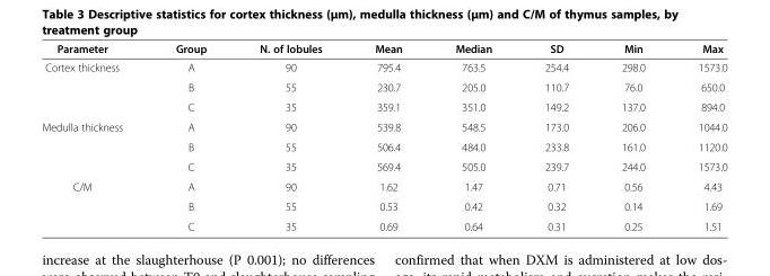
<table><thead><tr><td>Parameter</td><td>Group</td><td>N. of lobules</td><td>Mean</td><td>Median</td><td>SD</td><td>Min</td><td>Max</td></tr></thead><tbody><tr><td rowspan="3">Cortex thickness</td><td>A</td><td>90</td><td>795.4</td><td>763.5</td><td>254.4</td><td>298.0</td><td>1573.0</td></tr><tr><td>B</td><td>55</td><td>230.7</td><td>205.0</td><td>110.7</td><td>76.0</td><td>650.0</td></tr><tr><td>C</td><td>35</td><td>359.1</td><td>351.0</td><td>149.2</td><td>137.0</td><td>894.0</td></tr><tr><td rowspan="3">Medulla thickness</td><td>A</td><td>90</td><td>539.8</td><td>548.5</td><td>173.0</td><td>206.0</td><td>1044.0</td></tr><tr><td>B</td><td>55</td><td>506.4</td><td>484.0</td><td>233.8</td><td>161.0</td><td>1120.0</td></tr><tr><td>C</td><td>35</td><td>569.4</td><td>505.0</td><td>239.7</td><td>244.0</td><td>1573.0</td></tr><tr><td rowspan="3">C/M</td><td>A</td><td>90</td><td>1.62</td><td>1.47</td><td>0.71</td><td>0.56</td><td>4.43</td></tr><tr><td>B</td><td>55</td><td>0.53</td><td>0.42</td><td>0.32</td><td>0.14</td><td>1.69</td></tr><tr><td>C</td><td>35</td><td>0.69</td><td>0.64</td><td>0.31</td><td>0.25</td><td>1.51</td></tr></tbody></table>